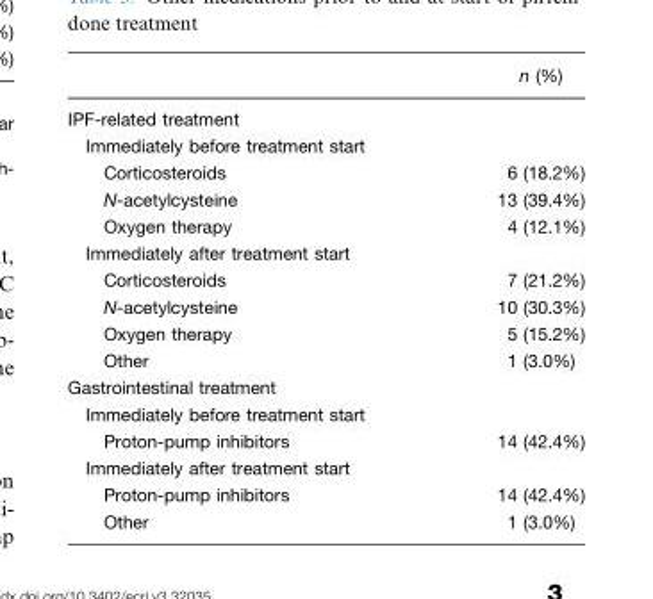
<table><thead><tr><td></td><td>n (%)</td></tr></thead><tbody><tr><td colspan="2">IPF-related treatment</td></tr><tr><td colspan="2">Immediately before treatment start</td></tr><tr><td>Corticosteroids</td><td>6 (18.2%)</td></tr><tr><td>N-acetylcysteine</td><td>13 (39.4%)</td></tr><tr><td>Oxygen therapy</td><td>4 (12.1%)</td></tr><tr><td colspan="2">Immediately after treatment start</td></tr><tr><td>Corticosteroids</td><td>7 (21.2%)</td></tr><tr><td>N-acetylcysteine</td><td>10 (30.3%)</td></tr><tr><td>Oxygen therapy</td><td>5 (15.2%)</td></tr><tr><td>Other</td><td>1 (3.0%)</td></tr><tr><td colspan="2">Gastrointestinal treatment</td></tr><tr><td colspan="2">Immediately before treatment start</td></tr><tr><td>Proton-pump inhibitors</td><td>14 (42.4%)</td></tr><tr><td colspan="2">Immediately after treatment start</td></tr><tr><td>Proton-pump inhibitors</td><td>14 (42.4%)</td></tr><tr><td>Other</td><td>1 (3.0%)</td></tr></tbody></table>